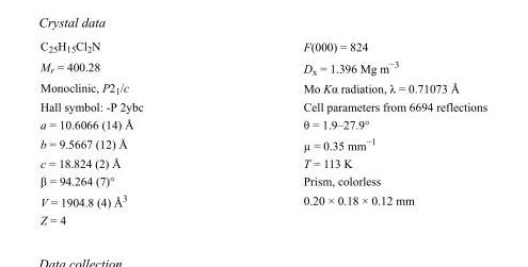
<table><tbody><tr><td>C<sub>25</sub>H<sub>15</sub>Cl<sub>2</sub>N</td><td>F(000) = 824</td></tr><tr><td>M<sub>r</sub> = 400.28</td><td>D<sub>x</sub> = 1.396 Mg m<sup>−3</sup></td></tr><tr><td>Monoclinic, P2<sub>1</sub>/c</td><td>Mo Kα radiation, λ = 0.71073 Å</td></tr><tr><td>Hall symbol: -P 2ybc</td><td>Cell parameters from 6694 reflections</td></tr><tr><td>a = 10.6066 (14) Å</td><td>θ = 1.9–27.9°</td></tr><tr><td>b = 9.5667 (12) Å</td><td>µ = 0.35 mm<sup>−1</sup></td></tr><tr><td>c = 18.824 (2) Å</td><td>T = 113 K</td></tr><tr><td>β = 94.264 (7)°</td><td>Prism, colorless</td></tr><tr><td>V = 1904.8 (4) Å<sup>3</sup></td><td>0.20 × 0.18 × 0.12 mm</td></tr><tr><td>Z = 4</td><td></td></tr></tbody></table>